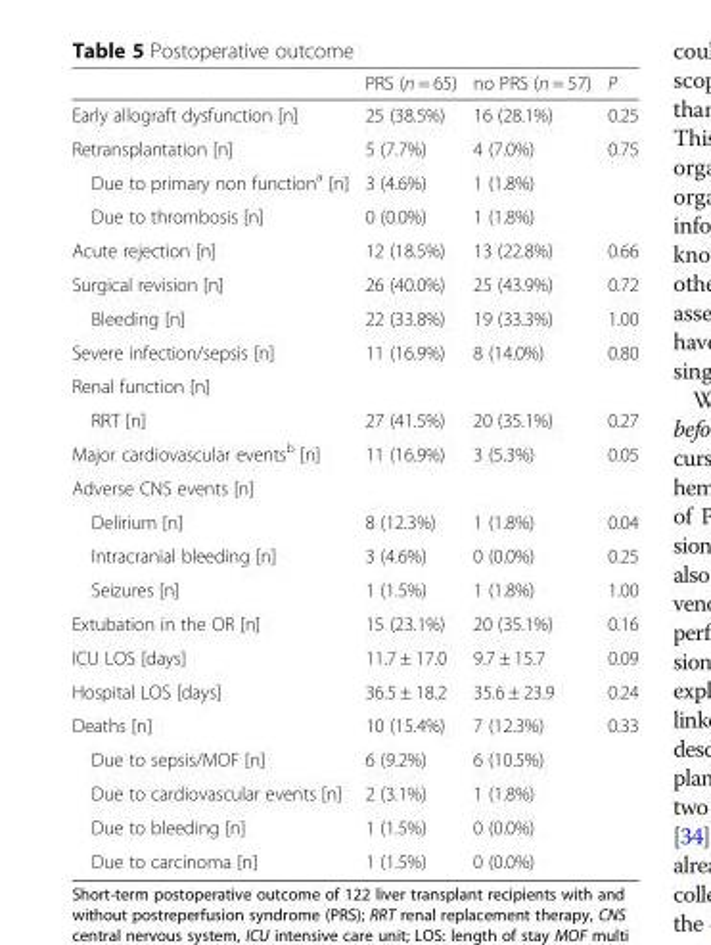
<table><thead><tr><td></td><td>PRS (n = 65)</td><td>no PRS (n = 57)</td><td>P</td></tr></thead><tbody><tr><td>Early allograft dysfunction [n]</td><td>25 (38.5%)</td><td>16 (28.1%)</td><td>0.25</td></tr><tr><td>Retransplantation [n]</td><td>5 (7.7%)</td><td>4 (7.0%)</td><td>0.75</td></tr><tr><td>Due to primary non function<sup>a</sup> [n]</td><td>3 (4.6%)</td><td>1 (1.8%)</td><td></td></tr><tr><td>Due to thrombosis [n]</td><td>0 (0.0%)</td><td>1 (1.8%)</td><td></td></tr><tr><td>Acute rejection [n]</td><td>12 (18.5%)</td><td>13 (22.8%)</td><td>0.66</td></tr><tr><td>Surgical revision [n]</td><td>26 (40.0%)</td><td>25 (43.9%)</td><td>0.72</td></tr><tr><td>Bleeding [n]</td><td>22 (33.8%)</td><td>19 (33.3%)</td><td>1.00</td></tr><tr><td>Severe infection/sepsis [n]</td><td>11 (16.9%)</td><td>8 (14.0%)</td><td>0.80</td></tr><tr><td colspan="4">Renal function [n]</td></tr><tr><td>RRT [n]</td><td>27 (41.5%)</td><td>20 (35.1%)</td><td>0.27</td></tr><tr><td>Major cardiovascular events<sup>b</sup> [n]</td><td>11 (16.9%)</td><td>3 (5.3%)</td><td>0.05</td></tr><tr><td colspan="4">Adverse CNS events [n]</td></tr><tr><td>Delirium [n]</td><td>8 (12.3%)</td><td>1 (1.8%)</td><td>0.04</td></tr><tr><td>Intracranial bleeding [n]</td><td>3 (4.6%)</td><td>0 (0.0%)</td><td>0.25</td></tr><tr><td>Seizures [n]</td><td>1 (1.5%)</td><td>1 (1.8%)</td><td>1.00</td></tr><tr><td>Extubation in the OR [n]</td><td>15 (23.1%)</td><td>20 (35.1%)</td><td>0.16</td></tr><tr><td>ICU LOS [days]</td><td>11.7 ± 17.0</td><td>9.7 ± 15.7</td><td>0.09</td></tr><tr><td>Hospital LOS [days]</td><td>36.5 ± 18.2</td><td>35.6 ± 23.9</td><td>0.24</td></tr><tr><td>Deaths [n]</td><td>10 (15.4%)</td><td>7 (12.3%)</td><td>0.33</td></tr><tr><td>Due to sepsis/MOF [n]</td><td>6 (9.2%)</td><td>6 (10.5%)</td><td></td></tr><tr><td>Due to cardiovascular events [n]</td><td>2 (3.1%)</td><td>1 (1.8%)</td><td></td></tr><tr><td>Due to bleeding [n]</td><td>1 (1.5%)</td><td>0 (0.0%)</td><td></td></tr><tr><td>Due to carcinoma [n]</td><td>1 (1.5%)</td><td>0 (0.0%)</td><td></td></tr></tbody></table>